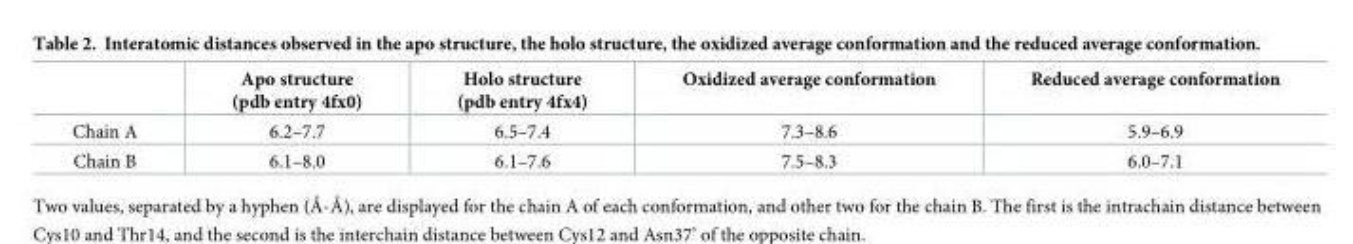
<table><thead><tr><td></td><td>Apo structure (pdb entry 4fx0)</td><td>Holo structure (pdb entry 4fx4)</td><td>Oxidized average conformation</td><td>Reduced average conformation</td></tr></thead><tbody><tr><td>Chain A</td><td>6.2–7.7</td><td>6.5–7.4</td><td>7.3–8.6</td><td>5.9–6.9</td></tr><tr><td>Chain B</td><td>6.1–8.0</td><td>6.1–7.6</td><td>7.5–8.3</td><td>6.0–7.1</td></tr></tbody></table>